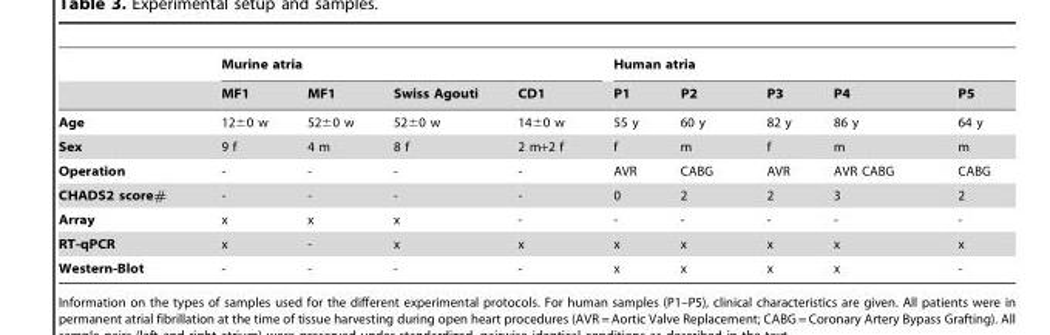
<table><thead><tr><td rowspan="2"></td><td colspan="4">Murine atria</td><td colspan="5">Human atria</td></tr><tr><td>MF1</td><td>MF1</td><td>Swiss Agouti</td><td>CD1</td><td>P1</td><td>P2</td><td>P3</td><td>P4</td><td>P5</td></tr></thead><tbody><tr><td>Age</td><td>12±0 w</td><td>52±0 w</td><td>52±0 w</td><td>14±0 w</td><td>55 y</td><td>60 y</td><td>82 y</td><td>86 y</td><td>64 y</td></tr><tr><td>Sex</td><td>9 f</td><td>4 m</td><td>8 f</td><td>2 m+2 f</td><td>f</td><td>m</td><td>f</td><td>m</td><td>m</td></tr><tr><td>Operation</td><td>-</td><td>-</td><td>-</td><td>-</td><td>AVR</td><td>CABG</td><td>AVR</td><td>AVR CABG</td><td>CABG</td></tr><tr><td>CHADS2 score#</td><td>-</td><td>-</td><td>-</td><td>-</td><td>0</td><td>2</td><td>2</td><td>3</td><td>2</td></tr><tr><td>Array</td><td>x</td><td>x</td><td>x</td><td>-</td><td>-</td><td>-</td><td>-</td><td>-</td><td>-</td></tr><tr><td>RT-qPCR</td><td>x</td><td>-</td><td>x</td><td>x</td><td>x</td><td>x</td><td>x</td><td>x</td><td>x</td></tr><tr><td>Western-Blot</td><td>-</td><td>-</td><td>-</td><td>-</td><td>x</td><td>x</td><td>x</td><td>x</td><td>-</td></tr></tbody></table>